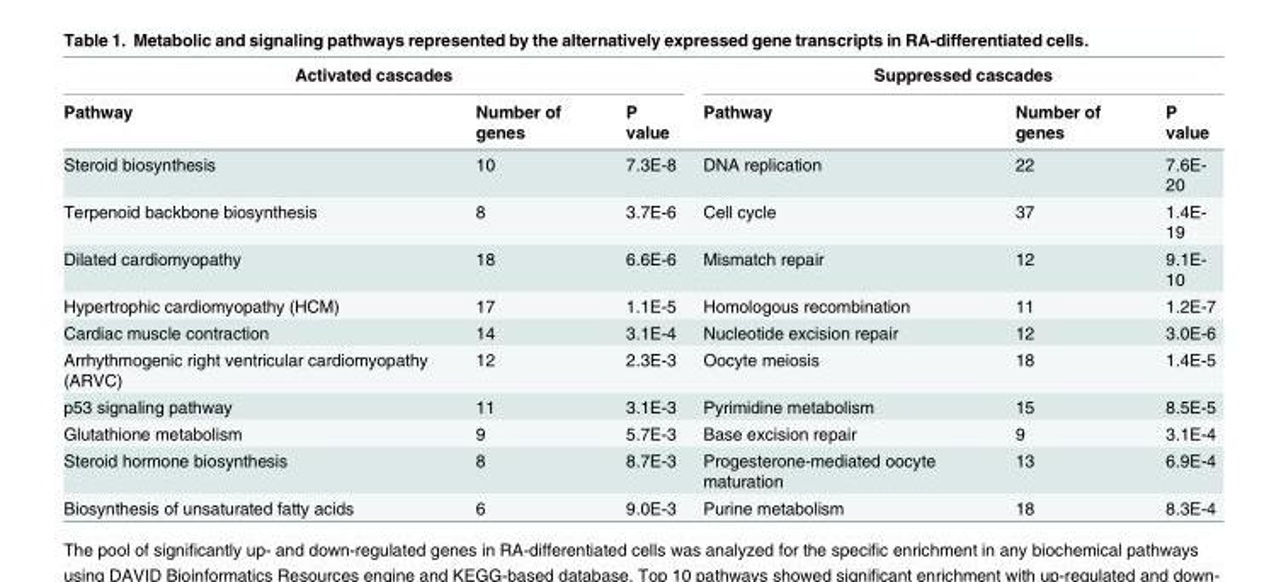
<table><thead><tr><td colspan="3">Activated cascades</td><td colspan="3">Suppressed cascades</td></tr><tr><td>Pathway</td><td>Number of genes</td><td>P value</td><td>Pathway</td><td>Number of genes</td><td>P value</td></tr></thead><tbody><tr><td>Steroid biosynthesis</td><td>10</td><td>7.3E-8</td><td>DNA replication</td><td>22</td><td>7.6E- 20</td></tr><tr><td>Terpenoid backbone biosynthesis</td><td>8</td><td>3.7E-6</td><td>Cell cycle</td><td>37</td><td>1.4E- 19</td></tr><tr><td>Dilated cardiomyopathy</td><td>18</td><td>6.6E-6</td><td>Mismatch repair</td><td>12</td><td>9.1E- 10</td></tr><tr><td>Hypertrophic cardiomyopathy (HCM)</td><td>17</td><td>1.1E-5</td><td>Homologous recombination</td><td>11</td><td>1.2E-7</td></tr><tr><td>Cardiac muscle contraction</td><td>14</td><td>3.1E-4</td><td>Nucleotide excision repair</td><td>12</td><td>3.0E-6</td></tr><tr><td>Arrhythmogenic right ventricular cardiomyopathy (ARVC)</td><td>12</td><td>2.3E-3</td><td>Oocyte meiosis</td><td>18</td><td>1.4E-5</td></tr><tr><td>p53 signaling pathway</td><td>11</td><td>3.1E-3</td><td>Pyrimidine metabolism</td><td>15</td><td>8.5E-5</td></tr><tr><td>Glutathione metabolism</td><td>9</td><td>5.7E-3</td><td>Base excision repair</td><td>9</td><td>3.1E-4</td></tr><tr><td>Steroid hormone biosynthesis</td><td>8</td><td>8.7E-3</td><td>Progesterone-mediated oocyte maturation</td><td>13</td><td>6.9E-4</td></tr><tr><td>Biosynthesis of unsaturated fatty acids</td><td>6</td><td>9.0E-3</td><td>Purine metabolism</td><td>18</td><td>8.3E-4</td></tr></tbody></table>